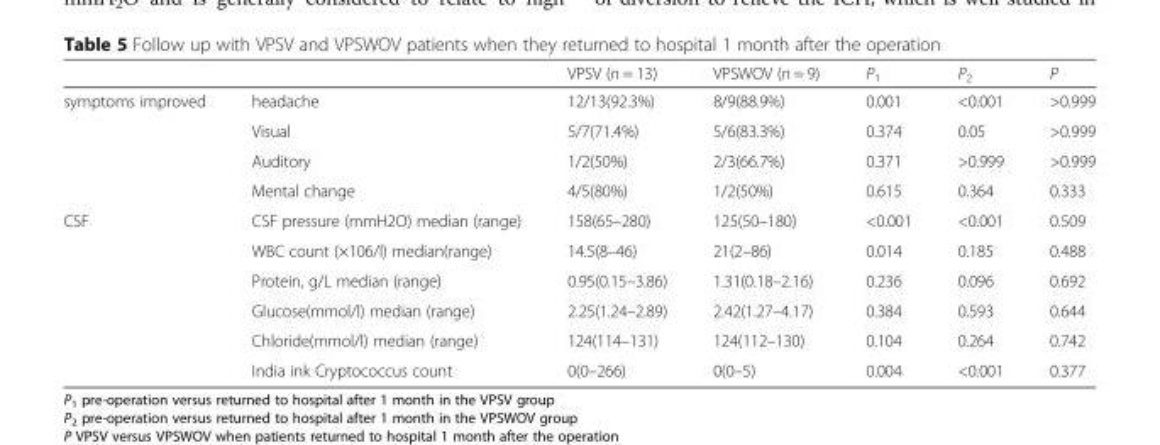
<table><thead><tr><td></td><td></td><td>VPSV (n = 13)</td><td>VPSWOV (n = 9)</td><td>P<sub>1</sub></td><td>P<sub>2</sub></td><td>P</td></tr></thead><tbody><tr><td rowspan="4">symptoms improved</td><td>headache</td><td>12/13(92.3%)</td><td>8/9(88.9%)</td><td>0.001</td><td>&lt;0.001</td><td>&gt;0.999</td></tr><tr><td>Visual</td><td>5/7(71.4%)</td><td>5/6(83.3%)</td><td>0.374</td><td>0.05</td><td>&gt;0.999</td></tr><tr><td>Auditory</td><td>1/2(50%)</td><td>2/3(66.7%)</td><td>0.371</td><td>&gt;0.999</td><td>&gt;0.999</td></tr><tr><td>Mental change</td><td>4/5(80%)</td><td>1/2(50%)</td><td>0.615</td><td>0.364</td><td>0.333</td></tr><tr><td rowspan="6">CSF</td><td>CSF pressure (mmH2O) median (range)</td><td>158(65–280)</td><td>125(50–180)</td><td>&lt;0.001</td><td>&lt;0.001</td><td>0.509</td></tr><tr><td>WBC count (×106/l) median(range)</td><td>14.5(8–46)</td><td>21(2–86)</td><td>0.014</td><td>0.185</td><td>0.488</td></tr><tr><td>Protein, g/L median (range)</td><td>0.95(0.15–3.86)</td><td>1.31(0.18–2.16)</td><td>0.236</td><td>0.096</td><td>0.692</td></tr><tr><td>Glucose(mmol/l) median (range)</td><td>2.25(1.24–2.89)</td><td>2.42(1.27–4.17)</td><td>0.384</td><td>0.593</td><td>0.644</td></tr><tr><td>Chloride(mmol/l) median (range)</td><td>124(114–131)</td><td>124(112–130)</td><td>0.104</td><td>0.264</td><td>0.742</td></tr><tr><td>India ink Cryptococcus count</td><td>0(0–266)</td><td>0(0–5)</td><td>0.004</td><td>&lt;0.001</td><td>0.377</td></tr></tbody></table>